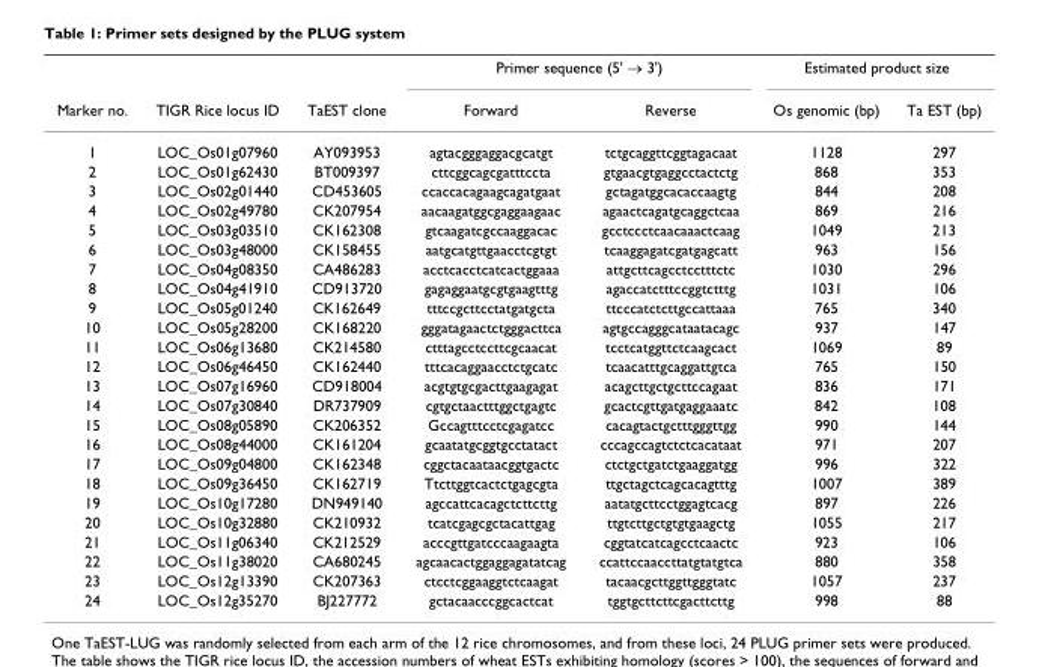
<table><thead><tr><td rowspan="2">Marker no.</td><td rowspan="2">TIGR Rice locus ID</td><td rowspan="2">TaEST clone</td><td colspan="2">Primer sequence (5&#x27; → 3&#x27;)</td><td colspan="2">Estimated product size</td></tr><tr><td>Forward</td><td>Reverse</td><td>Os genomic (bp)</td><td>Ta EST (bp)</td></tr></thead><tbody><tr><td>1</td><td>LOC_Os01g07960</td><td>AY093953</td><td>agtacgggaggacgcatgt</td><td>tctgcaggttcggtagacaat</td><td>1128</td><td>297</td></tr><tr><td>2</td><td>LOC_Os01g62430</td><td>BT009397</td><td>cttcggcagcgatttccta</td><td>gtgaacgtgaggcctactctg</td><td>868</td><td>353</td></tr><tr><td>3</td><td>LOC_Os02g01440</td><td>CD453605</td><td>ccaccacagaagcagatgaat</td><td>gctagatggcacaccaagtg</td><td>844</td><td>208</td></tr><tr><td>4</td><td>LOC_Os02g49780</td><td>CK207954</td><td>aacaagatggcgaggaagaac</td><td>agaactcagatgcaggctcaa</td><td>869</td><td>216</td></tr><tr><td>5</td><td>LOC_Os03g03510</td><td>CK162308</td><td>gtcaagatcgccaaggacac</td><td>gcctccctcaacaaactcaag</td><td>1049</td><td>213</td></tr><tr><td>6</td><td>LOC_Os03g48000</td><td>CK158455</td><td>aatgcatgttgaacctcgtgt</td><td>tcaaggagatcgatgagcatt</td><td>963</td><td>156</td></tr><tr><td>7</td><td>LOC_Os04g08350</td><td>CA486283</td><td>acctcacctcatcactggaaa</td><td>attgcttcagcctcctttctc</td><td>1030</td><td>296</td></tr><tr><td>8</td><td>LOC_Os04g41910</td><td>CD913720</td><td>gagaggaatgcgtgaagtttg</td><td>agaccatctttccggtctttg</td><td>1031</td><td>106</td></tr><tr><td>9</td><td>LOC_Os05g01240</td><td>CK162649</td><td>tttccgcttcctatgatgcta</td><td>ttcccatctcttgccattaaa</td><td>765</td><td>340</td></tr><tr><td>10</td><td>LOC_Os05g28200</td><td>CK168220</td><td>gggatagaactctgggacttca</td><td>agtgccagggcataatacagc</td><td>937</td><td>147</td></tr><tr><td>11</td><td>LOC_Os06g13680</td><td>CK214580</td><td>ctttagcctccttcgcaacat</td><td>tcctcatggttctcaagcact</td><td>1069</td><td>89</td></tr><tr><td>12</td><td>LOC_Os06g46450</td><td>CK162440</td><td>tttcacaggaacctctgcatc</td><td>tcaacatttgcaggattgtca</td><td>765</td><td>150</td></tr><tr><td>13</td><td>LOC_Os07g16960</td><td>CD918004</td><td>acgtgtgcgacttgaagagat</td><td>acagcttgctgcttccagaat</td><td>836</td><td>171</td></tr><tr><td>14</td><td>LOC_Os07g30840</td><td>DR737909</td><td>cgtgctaactttggctgagtc</td><td>gcactcgttgatgaggaaatc</td><td>842</td><td>108</td></tr><tr><td>15</td><td>LOC_Os08g05890</td><td>CK206352</td><td>Gccagtttcctcgagatcc</td><td>cacagtactgctttgggttgg</td><td>990</td><td>144</td></tr><tr><td>16</td><td>LOC_Os08g44000</td><td>CK161204</td><td>gcaatatgcggtgcctatact</td><td>cccagccagtctctcacataat</td><td>971</td><td>207</td></tr><tr><td>17</td><td>LOC_Os09g04800</td><td>CK162348</td><td>cggctacaataacggtgactc</td><td>ctctgctgatctgaaggatgg</td><td>996</td><td>322</td></tr><tr><td>18</td><td>LOC_Os09g36450</td><td>CK162719</td><td>Ttcttggtcactctgagcgta</td><td>ttgctagctcagcacagtttg</td><td>1007</td><td>389</td></tr><tr><td>19</td><td>LOC_Os10g17280</td><td>DN949140</td><td>agccattcacagctcttcttg</td><td>aatatgcttcctggagtcacg</td><td>897</td><td>226</td></tr><tr><td>20</td><td>LOC_Os10g32880</td><td>CK210932</td><td>tcatcgagcgctacattgag</td><td>ttgtcttgctgtgtgaagctg</td><td>1055</td><td>217</td></tr><tr><td>21</td><td>LOC_Os11g06340</td><td>CK212529</td><td>acccgttgatcccaagaagta</td><td>cggtatcatcagcctcaactc</td><td>923</td><td>106</td></tr><tr><td>22</td><td>LOC_Os11g38020</td><td>CA680245</td><td>agcaacactggaggagatatcag</td><td>ccattccaaccttatgtatgtca</td><td>880</td><td>358</td></tr><tr><td>23</td><td>LOC_Os12g13390</td><td>CK207363</td><td>ctcctcggaaggtctcaagat</td><td>tacaacgcttggttgggtatc</td><td>1057</td><td>237</td></tr><tr><td>24</td><td>LOC_Os12g35270</td><td>BJ227772</td><td>gctacaacccggcactcat</td><td>tggtgcttcttcgacttcttg</td><td>998</td><td>88</td></tr></tbody></table>